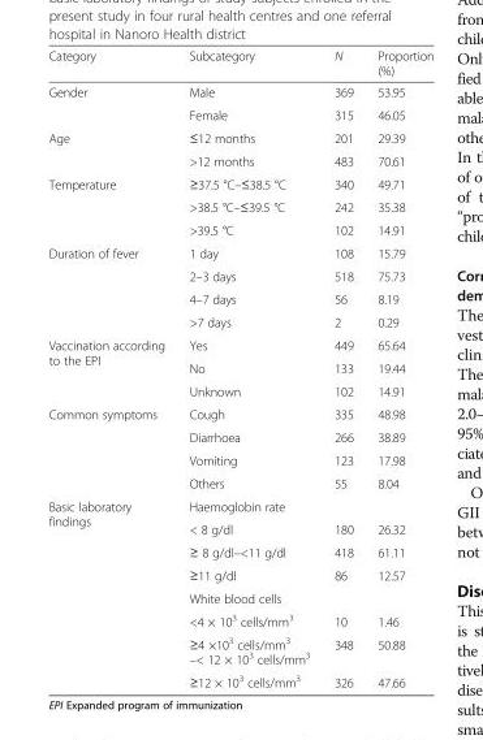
<table><thead><tr><td>Category</td><td>Subcategory</td><td>N</td><td>Proportion (%)</td></tr></thead><tbody><tr><td rowspan="2">Gender</td><td>Male</td><td>369</td><td>53.95</td></tr><tr><td>Female</td><td>315</td><td>46.05</td></tr><tr><td rowspan="2">Age</td><td>≤12 months</td><td>201</td><td>29.39</td></tr><tr><td>&gt;12 months</td><td>483</td><td>70.61</td></tr><tr><td rowspan="3">Temperature</td><td>≥37.5 °C–≤38.5 °C</td><td>340</td><td>49.71</td></tr><tr><td>&gt;38.5 °C–≤39.5 °C</td><td>242</td><td>35.38</td></tr><tr><td>&gt;39.5 °C</td><td>102</td><td>14.91</td></tr><tr><td rowspan="4">Duration of fever</td><td>1 day</td><td>108</td><td>15.79</td></tr><tr><td>2–3 days</td><td>518</td><td>75.73</td></tr><tr><td>4–7 days</td><td>56</td><td>8.19</td></tr><tr><td>&gt;7 days</td><td>2</td><td>0.29</td></tr><tr><td rowspan="3">Vaccination according to the EPI</td><td>Yes</td><td>449</td><td>65.64</td></tr><tr><td>No</td><td>133</td><td>19.44</td></tr><tr><td>Unknown</td><td>102</td><td>14.91</td></tr><tr><td rowspan="4">Common symptoms</td><td>Cough</td><td>335</td><td>48.98</td></tr><tr><td>Diarrhoea</td><td>266</td><td>38.89</td></tr><tr><td>Vomiting</td><td>123</td><td>17.98</td></tr><tr><td>Others</td><td>55</td><td>8.04</td></tr><tr><td rowspan="8">Basic laboratory findings</td><td>Haemoglobin rate</td><td></td><td></td></tr><tr><td>&lt; 8 g/dl</td><td>180</td><td>26.32</td></tr><tr><td>≥ 8 g/dl–&lt;11 g/dl</td><td>418</td><td>61.11</td></tr><tr><td>≥11 g/dl</td><td>86</td><td>12.57</td></tr><tr><td>White blood cells</td><td></td><td></td></tr><tr><td>&lt;4 × 10<sup>3</sup> cells/mm<sup>3</sup></td><td>10</td><td>1.46</td></tr><tr><td>≥4 ×10<sup>3</sup> cells/mm<sup>3</sup> –&lt; 12 × 10<sup>3</sup> cells/mm<sup>3</sup></td><td>348</td><td>50.88</td></tr><tr><td>≥12 × 10<sup>3</sup> cells/mm<sup>3</sup></td><td>326</td><td>47.66</td></tr></tbody></table>